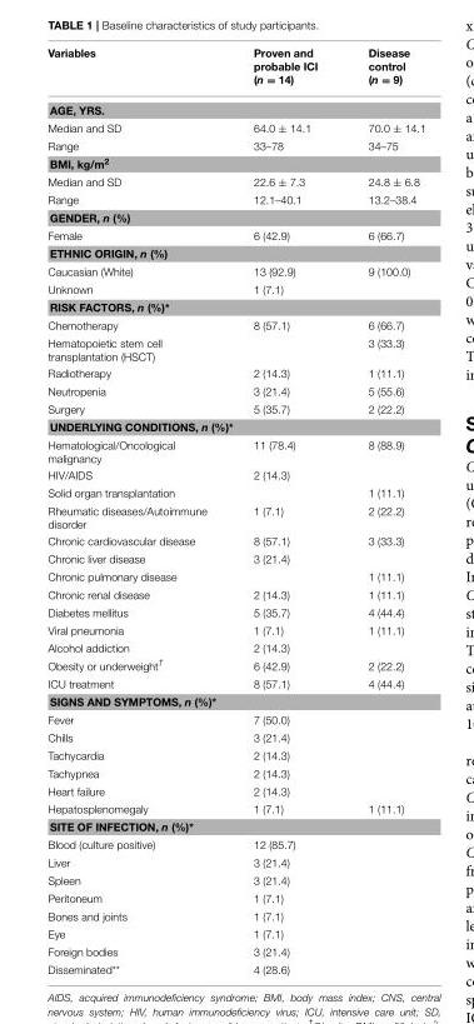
<table><thead><tr><td>Variables</td><td>Proven and probable ICI (n = 14)</td><td>Disease control (n = 9)</td></tr></thead><tbody><tr><td colspan="3">AGE, YRS.</td></tr><tr><td>Median and SD</td><td>64.0 ± 14.1</td><td>70.0 ± 14.1</td></tr><tr><td>Range</td><td>33–78</td><td>34–75</td></tr><tr><td colspan="3">BMI, kg/m<sup>2</sup></td></tr><tr><td>Median and SD</td><td>22.6 ± 7.3</td><td>24.8 ± 6.8</td></tr><tr><td>Range</td><td>12.1–40.1</td><td>13.2–38.4</td></tr><tr><td colspan="3">GENDER, n (%)</td></tr><tr><td>Female</td><td>6 (42.9)</td><td>6 (66.7)</td></tr><tr><td colspan="3">ETHNIC ORIGIN, n (%)</td></tr><tr><td>Caucasian (White)</td><td>13 (92.9)</td><td>9 (100.0)</td></tr><tr><td>Unknown</td><td>1 (7.1)</td><td></td></tr><tr><td colspan="3">RISK FACTORS, n (%)*</td></tr><tr><td>Chemotherapy</td><td>8 (57.1)</td><td>6 (66.7)</td></tr><tr><td>Hematopoietic stem cell transplantation (HSCT)</td><td></td><td>3 (33.3)</td></tr><tr><td>Radiotherapy</td><td>2 (14.3)</td><td>1 (11.1)</td></tr><tr><td>Neutropenia</td><td>3 (21.4)</td><td>5 (55.6)</td></tr><tr><td>Surgery</td><td>5 (35.7)</td><td>2 (22.2)</td></tr><tr><td colspan="3">UNDERLYING CONDITIONS, n (%)*</td></tr><tr><td>Hematological/Oncological malignancy</td><td>11 (78.4)</td><td>8 (88.9)</td></tr><tr><td>HIV/AIDS</td><td>2 (14.3)</td><td></td></tr><tr><td>Solid organ transplantation</td><td></td><td>1 (11.1)</td></tr><tr><td>Rheumatic diseases/Autoimmune disorder</td><td>1 (7.1)</td><td>2 (22.2)</td></tr><tr><td>Chronic cardiovascular disease</td><td>8 (57.1)</td><td>3 (33.3)</td></tr><tr><td>Chronic liver disease</td><td>3 (21.4)</td><td></td></tr><tr><td>Chronic pulmonary disease</td><td></td><td>1 (11.1)</td></tr><tr><td>Chronic renal disease</td><td>2 (14.3)</td><td>1 (11.1)</td></tr><tr><td>Diabetes mellitus</td><td>5 (35.7)</td><td>4 (44.4)</td></tr><tr><td>Viral pneumonia</td><td>1 (7.1)</td><td>1 (11.1)</td></tr><tr><td>Alcohol addiction</td><td>2 (14.3)</td><td></td></tr><tr><td>Obesity or underweight<sup>†</sup></td><td>6 (42.9)</td><td>2 (22.2)</td></tr><tr><td>ICU treatment</td><td>8 (57.1)</td><td>4 (44.4)</td></tr><tr><td colspan="3">SIGNS AND SYMPTOMS, n (%)*</td></tr><tr><td>Fever</td><td>7 (50.0)</td><td></td></tr><tr><td>Chills</td><td>3 (21.4)</td><td></td></tr><tr><td>Tachycardia</td><td>2 (14.3)</td><td></td></tr><tr><td>Tachypnea</td><td>2 (14.3)</td><td></td></tr><tr><td>Heart failure</td><td>2 (14.3)</td><td></td></tr><tr><td>Hepatosplenomegaly</td><td>1 (7.1)</td><td>1 (11.1)</td></tr><tr><td colspan="3">SITE OF INFECTION, n (%)*</td></tr><tr><td>Blood (culture positive)</td><td>12 (85.7)</td><td></td></tr><tr><td>Liver</td><td>3 (21.4)</td><td></td></tr><tr><td>Spleen</td><td>3 (21.4)</td><td></td></tr><tr><td>Peritoneum</td><td>1 (7.1)</td><td></td></tr><tr><td>Bones and joints</td><td>1 (7.1)</td><td></td></tr><tr><td>Eye</td><td>1 (7.1)</td><td></td></tr><tr><td>Foreign bodies</td><td>3 (21.4)</td><td></td></tr><tr><td>Disseminated**</td><td>4 (28.6)</td><td></td></tr></tbody></table>